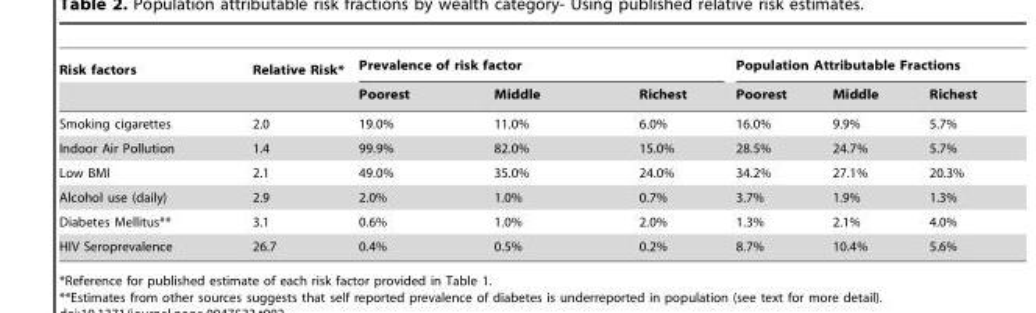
<table><thead><tr><td rowspan="2">Risk factors</td><td rowspan="2">Relative Risk*</td><td colspan="3">Prevalence of risk factor</td><td colspan="3">Population Attributable Fractions</td></tr><tr><td>Poorest</td><td>Middle</td><td>Richest</td><td>Poorest</td><td>Middle</td><td>Richest</td></tr></thead><tbody><tr><td>Smoking cigarettes</td><td>2.0</td><td>19.0%</td><td>11.0%</td><td>6.0%</td><td>16.0%</td><td>9.9%</td><td>5.7%</td></tr><tr><td>Indoor Air Pollution</td><td>1.4</td><td>99.9%</td><td>82.0%</td><td>15.0%</td><td>28.5%</td><td>24.7%</td><td>5.7%</td></tr><tr><td>Low BMI</td><td>2.1</td><td>49.0%</td><td>35.0%</td><td>24.0%</td><td>34.2%</td><td>27.1%</td><td>20.3%</td></tr><tr><td>Alcohol use (daily)</td><td>2.9</td><td>2.0%</td><td>1.0%</td><td>0.7%</td><td>3.7%</td><td>1.9%</td><td>1.3%</td></tr><tr><td>Diabetes Mellitus**</td><td>3.1</td><td>0.6%</td><td>1.0%</td><td>2.0%</td><td>1.3%</td><td>2.1%</td><td>4.0%</td></tr><tr><td>HIV Seroprevalence</td><td>26.7</td><td>0.4%</td><td>0.5%</td><td>0.2%</td><td>8.7%</td><td>10.4%</td><td>5.6%</td></tr></tbody></table>